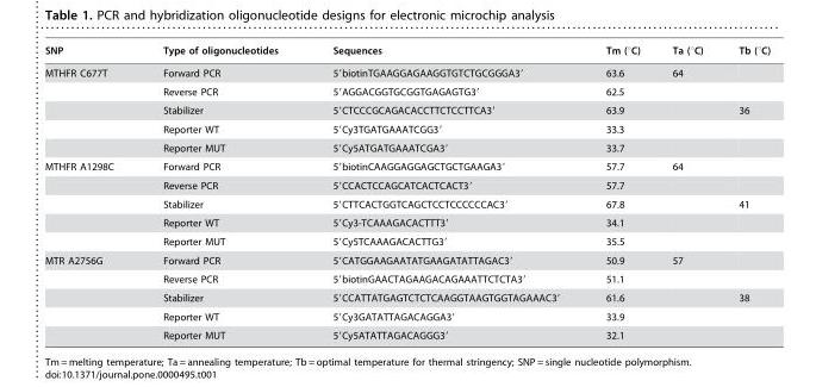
<table><thead><tr><td>SNP</td><td>Type of oligonucleotides</td><td>Sequences</td><td>Tm (°C)</td><td>Ta (°C)</td><td>Tb (°C)</td></tr></thead><tbody><tr><td rowspan="5">MTHFR C677T</td><td>Forward PCR</td><td>5′biotinTGAAGGAGAAGGTGTCTGCGGGA3′</td><td>63.6</td><td>64</td><td></td></tr><tr><td>Reverse PCR</td><td>5′AGGACGGTGCGGTGAGAGTG3′</td><td>62.5</td><td></td><td></td></tr><tr><td>Stabilizer</td><td>5′CTCCCGCAGACACCTTCTCCTTCA3′</td><td>63.9</td><td></td><td>36</td></tr><tr><td>Reporter WT</td><td>5′Cy3TGATGAAATCGG3′</td><td>33.3</td><td></td><td></td></tr><tr><td>Reporter MUT</td><td>5′Cy5ATGATGAAATCGA3′</td><td>33.7</td><td></td><td></td></tr><tr><td rowspan="5">MTHFR A1298C</td><td>Forward PCR</td><td>5′biotinCAAGGAGGAGCTGCTGAAGA3′</td><td>57.7</td><td>64</td><td></td></tr><tr><td>Reverse PCR</td><td>5′CCACTCCAGCATCACTCACT3′</td><td>57.7</td><td></td><td></td></tr><tr><td>Stabilizer</td><td>5′CTTCACTGGTCAGCTCCTCCCCCCAC3′</td><td>67.8</td><td></td><td>41</td></tr><tr><td>Reporter WT</td><td>5′Cy3-TCAAAGACACTTT3′</td><td>34.1</td><td></td><td></td></tr><tr><td>Reporter MUT</td><td>5′Cy5TCAAAGACACTTG3′</td><td>35.5</td><td></td><td></td></tr><tr><td rowspan="5">MTR A2756G</td><td>Forward PCR</td><td>5′CATGGAAGAATATGAAGATATTAGAC3′</td><td>50.9</td><td>57</td><td></td></tr><tr><td>Reverse PCR</td><td>5′biotinGAACTAGAAGACAGAAATTCTCTA3′</td><td>51.1</td><td></td><td></td></tr><tr><td>Stabilizer</td><td>5′CCATTATGAGTCTCTCAAGGTAAGTGGTAGAAAC3′</td><td>61.6</td><td></td><td>38</td></tr><tr><td>Reporter WT</td><td>5′Cy3GATATTAGACAGGA3′</td><td>33.9</td><td></td><td></td></tr><tr><td>Reporter MUT</td><td>5′Cy5ATATTAGACAGGG3′</td><td>32.1</td><td></td><td></td></tr></tbody></table>